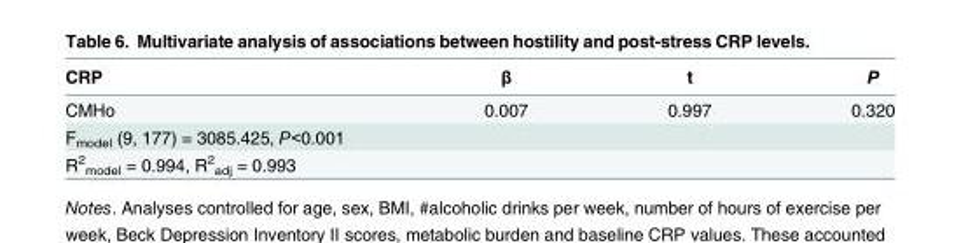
<table><thead><tr><td>CRP</td><td>β</td><td>t</td><td>P</td></tr></thead><tbody><tr><td>CMHo</td><td>0.007</td><td>0.997</td><td>0.320</td></tr><tr><td colspan="4">F<sub>model</sub> (9, 177) = 3085.425, P&lt;0.001</td></tr><tr><td>R<sup>2</sup> <sub>model</sub> = 0.994, R<sup>2</sup> <sub>adj</sub> = 0.993</td><td></td><td></td><td></td></tr></tbody></table>